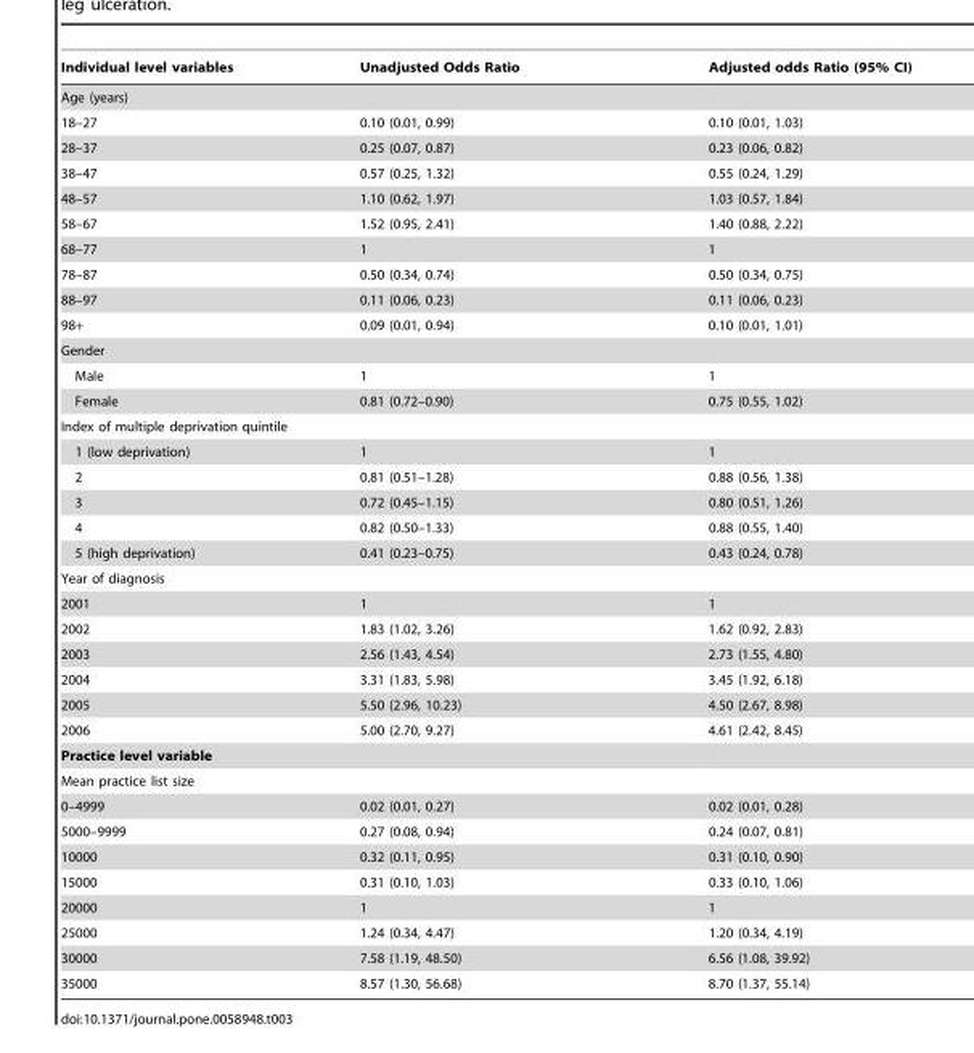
<table><thead><tr><td>Individual level variables</td><td>Unadjusted Odds Ratio</td><td>Adjusted odds Ratio (95% CI)</td></tr></thead><tbody><tr><td colspan="3">Age (years)</td></tr><tr><td>18–27</td><td>0.10 (0.01, 0.99)</td><td>0.10 (0.01, 1.03)</td></tr><tr><td>28–37</td><td>0.25 (0.07, 0.87)</td><td>0.23 (0.06, 0.82)</td></tr><tr><td>38–47</td><td>0.57 (0.25, 1.32)</td><td>0.55 (0.24, 1.29)</td></tr><tr><td>48–57</td><td>1.10 (0.62, 1.97)</td><td>1.03 (0.57, 1.84)</td></tr><tr><td>58–67</td><td>1.52 (0.95, 2.41)</td><td>1.40 (0.88, 2.22)</td></tr><tr><td>68–77</td><td>1</td><td>1</td></tr><tr><td>78–87</td><td>0.50 (0.34, 0.74)</td><td>0.50 (0.34, 0.75)</td></tr><tr><td>88–97</td><td>0.11 (0.06, 0.23)</td><td>0.11 (0.06, 0.23)</td></tr><tr><td>98+</td><td>0.09 (0.01, 0.94)</td><td>0.10 (0.01, 1.01)</td></tr><tr><td colspan="3">Gender</td></tr><tr><td>Male</td><td>1</td><td>1</td></tr><tr><td>Female</td><td>0.81 (0.72–0.90)</td><td>0.75 (0.55, 1.02)</td></tr><tr><td colspan="3">Index of multiple deprivation quintile</td></tr><tr><td>1 (low deprivation)</td><td>1</td><td>1</td></tr><tr><td>2</td><td>0.81 (0.51–1.28)</td><td>0.88 (0.56, 1.38)</td></tr><tr><td>3</td><td>0.72 (0.45–1.15)</td><td>0.80 (0.51, 1.26)</td></tr><tr><td>4</td><td>0.82 (0.50–1.33)</td><td>0.88 (0.55, 1.40)</td></tr><tr><td>5 (high deprivation)</td><td>0.41 (0.23–0.75)</td><td>0.43 (0.24, 0.78)</td></tr><tr><td colspan="3">Year of diagnosis</td></tr><tr><td>2001</td><td>1</td><td>1</td></tr><tr><td>2002</td><td>1.83 (1.02, 3.26)</td><td>1.62 (0.92, 2.83)</td></tr><tr><td>2003</td><td>2.56 (1.43, 4.54)</td><td>2.73 (1.55, 4.80)</td></tr><tr><td>2004</td><td>3.31 (1.83, 5.98)</td><td>3.45 (1.92, 6.18)</td></tr><tr><td>2005</td><td>5.50 (2.96, 10.23)</td><td>4.50 (2.67, 8.98)</td></tr><tr><td>2006</td><td>5.00 (2.70, 9.27)</td><td>4.61 (2.42, 8.45)</td></tr><tr><td colspan="3">Practice level variable</td></tr><tr><td colspan="3">Mean practice list size</td></tr><tr><td>0–4999</td><td>0.02 (0.01, 0.27)</td><td>0.02 (0.01, 0.28)</td></tr><tr><td>5000–9999</td><td>0.27 (0.08, 0.94)</td><td>0.24 (0.07, 0.81)</td></tr><tr><td>10000</td><td>0.32 (0.11, 0.95)</td><td>0.31 (0.10, 0.90)</td></tr><tr><td>15000</td><td>0.31 (0.10, 1.03)</td><td>0.33 (0.10, 1.06)</td></tr><tr><td>20000</td><td>1</td><td>1</td></tr><tr><td>25000</td><td>1.24 (0.34, 4.47)</td><td>1.20 (0.34, 4.19)</td></tr><tr><td>30000</td><td>7.58 (1.19, 48.50)</td><td>6.56 (1.08, 39.92)</td></tr><tr><td>35000</td><td>8.57 (1.30, 56.68)</td><td>8.70 (1.37, 55.14)</td></tr></tbody></table>